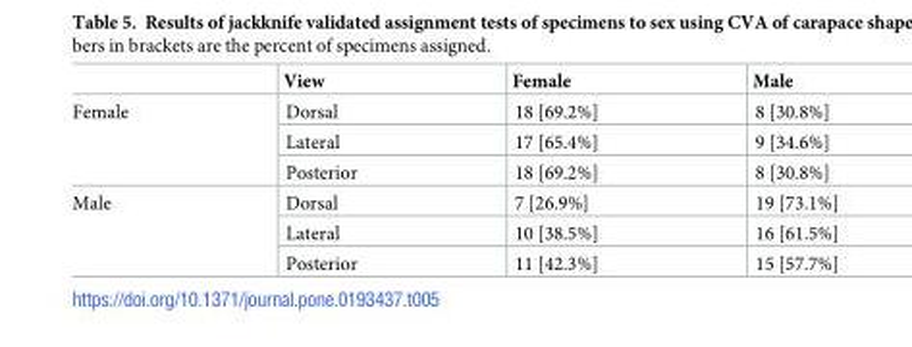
<table><thead><tr><td></td><td>View</td><td>Female</td><td>Male</td></tr></thead><tbody><tr><td rowspan="3">Female</td><td>Dorsal</td><td>18 [69.2%]</td><td>8 [30.8%]</td></tr><tr><td>Lateral</td><td>17 [65.4%]</td><td>9 [34.6%]</td></tr><tr><td>Posterior</td><td>18 [69.2%]</td><td>8 [30.8%]</td></tr><tr><td rowspan="3">Male</td><td>Dorsal</td><td>7 [26.9%]</td><td>19 [73.1%]</td></tr><tr><td>Lateral</td><td>10 [38.5%]</td><td>16 [61.5%]</td></tr><tr><td>Posterior</td><td>11 [42.3%]</td><td>15 [57.7%]</td></tr></tbody></table>